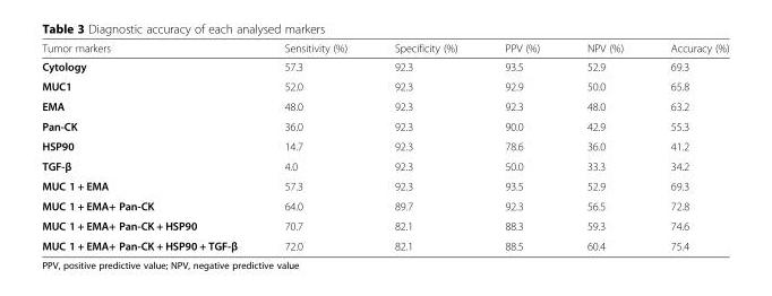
<table><thead><tr><td>Tumor markers</td><td>Sensitivity (%)</td><td>Specificity (%)</td><td>PPV (%)</td><td>NPV (%)</td><td>Accuracy (%)</td></tr></thead><tbody><tr><td>Cytology</td><td>57.3</td><td>92.3</td><td>93.5</td><td>52.9</td><td>69.3</td></tr><tr><td>MUC1</td><td>52.0</td><td>92.3</td><td>92.9</td><td>50.0</td><td>65.8</td></tr><tr><td>EMA</td><td>48.0</td><td>92.3</td><td>92.3</td><td>48.0</td><td>63.2</td></tr><tr><td>Pan-CK</td><td>36.0</td><td>92.3</td><td>90.0</td><td>42.9</td><td>55.3</td></tr><tr><td>HSP90</td><td>14.7</td><td>92.3</td><td>78.6</td><td>36.0</td><td>41.2</td></tr><tr><td>TGF-β</td><td>4.0</td><td>92.3</td><td>50.0</td><td>33.3</td><td>34.2</td></tr><tr><td>MUC 1 + EMA</td><td>57.3</td><td>92.3</td><td>93.5</td><td>52.9</td><td>69.3</td></tr><tr><td>MUC 1 + EMA+ Pan-CK</td><td>64.0</td><td>89.7</td><td>92.3</td><td>56.5</td><td>72.8</td></tr><tr><td>MUC 1 + EMA+ Pan-CK + HSP90</td><td>70.7</td><td>82.1</td><td>88.3</td><td>59.3</td><td>74.6</td></tr><tr><td>MUC 1 + EMA+ Pan-CK + HSP90 + TGF-β</td><td>72.0</td><td>82.1</td><td>88.5</td><td>60.4</td><td>75.4</td></tr></tbody></table>